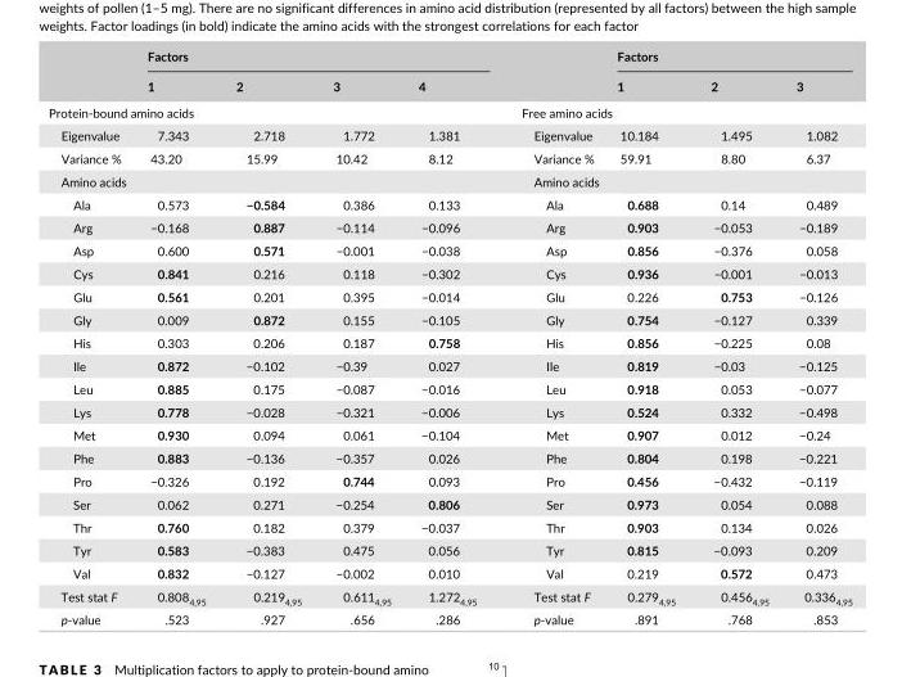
<table><thead><tr><td rowspan="2"></td><td colspan="4">Factors</td><td rowspan="2"></td><td colspan="3">Factors</td></tr><tr><td>1</td><td>2</td><td>3</td><td>4</td><td>1</td><td>2</td><td>3</td></tr></thead><tbody><tr><td colspan="5">Protein- bound amino acids</td><td colspan="4">Free amino acids</td></tr><tr><td>Eigenvalue</td><td>7.343</td><td>2.718</td><td>1.772</td><td>1.381</td><td>Eigenvalue</td><td>10.184</td><td>1.495</td><td>1.082</td></tr><tr><td>Variance %</td><td>43.20</td><td>15.99</td><td>10.42</td><td>8.12</td><td>Variance %</td><td>59.91</td><td>8.80</td><td>6.37</td></tr><tr><td colspan="5">Amino acids</td><td colspan="4">Amino acids</td></tr><tr><td>Ala</td><td>0.573</td><td>−0.584</td><td>0.386</td><td>0.133</td><td>Ala</td><td>0.688</td><td>0.14</td><td>0.489</td></tr><tr><td>Arg</td><td>−0.168</td><td>0.887</td><td>−0.114</td><td>−0.096</td><td>Arg</td><td>0.903</td><td>−0.053</td><td>−0.189</td></tr><tr><td>Asp</td><td>0.600</td><td>0.571</td><td>−0.001</td><td>−0.038</td><td>Asp</td><td>0.856</td><td>−0.376</td><td>0.058</td></tr><tr><td>Cys</td><td>0.841</td><td>0.216</td><td>0.118</td><td>−0.302</td><td>Cys</td><td>0.936</td><td>−0.001</td><td>−0.013</td></tr><tr><td>Glu</td><td>0.561</td><td>0.201</td><td>0.395</td><td>−0.014</td><td>Glu</td><td>0.226</td><td>0.753</td><td>−0.126</td></tr><tr><td>Gly</td><td>0.009</td><td>0.872</td><td>0.155</td><td>−0.105</td><td>Gly</td><td>0.754</td><td>−0.127</td><td>0.339</td></tr><tr><td>His</td><td>0.303</td><td>0.206</td><td>0.187</td><td>0.758</td><td>His</td><td>0.856</td><td>−0.225</td><td>0.08</td></tr><tr><td>Ile</td><td>0.872</td><td>−0.102</td><td>−0.39</td><td>0.027</td><td>Ile</td><td>0.819</td><td>−0.03</td><td>−0.125</td></tr><tr><td>Leu</td><td>0.885</td><td>0.175</td><td>−0.087</td><td>−0.016</td><td>Leu</td><td>0.918</td><td>0.053</td><td>−0.077</td></tr><tr><td>Lys</td><td>0.778</td><td>−0.028</td><td>−0.321</td><td>−0.006</td><td>Lys</td><td>0.524</td><td>0.332</td><td>−0.498</td></tr><tr><td>Met</td><td>0.930</td><td>0.094</td><td>0.061</td><td>−0.104</td><td>Met</td><td>0.907</td><td>0.012</td><td>−0.24</td></tr><tr><td>Phe</td><td>0.883</td><td>−0.136</td><td>−0.357</td><td>0.026</td><td>Phe</td><td>0.804</td><td>0.198</td><td>−0.221</td></tr><tr><td>Pro</td><td>−0.326</td><td>0.192</td><td>0.744</td><td>0.093</td><td>Pro</td><td>0.456</td><td>−0.432</td><td>−0.119</td></tr><tr><td>Ser</td><td>0.062</td><td>0.271</td><td>−0.254</td><td>0.806</td><td>Ser</td><td>0.973</td><td>0.054</td><td>0.088</td></tr><tr><td>Thr</td><td>0.760</td><td>0.182</td><td>0.379</td><td>−0.037</td><td>Thr</td><td>0.903</td><td>0.134</td><td>0.026</td></tr><tr><td>Tyr</td><td>0.583</td><td>−0.383</td><td>0.475</td><td>0.056</td><td>Tyr</td><td>0.815</td><td>−0.093</td><td>0.209</td></tr><tr><td>Val</td><td>0.832</td><td>−0.127</td><td>−0.002</td><td>0.010</td><td>Val</td><td>0.219</td><td>0.572</td><td>0.473</td></tr><tr><td>Test stat F</td><td>0.808<sub>4,95</sub></td><td>0.219<sub>4,95</sub></td><td>0.611<sub>4,95</sub></td><td>1.272<sub>4,95</sub></td><td>Test stat F</td><td>0.279<sub>4,95</sub></td><td>0.456<sub>4,95</sub></td><td>0.336<sub>4,95</sub></td></tr><tr><td>p- value</td><td>.523</td><td>.927</td><td>.656</td><td>.286</td><td>p- value</td><td>.891</td><td>.768</td><td>.853</td></tr></tbody></table>